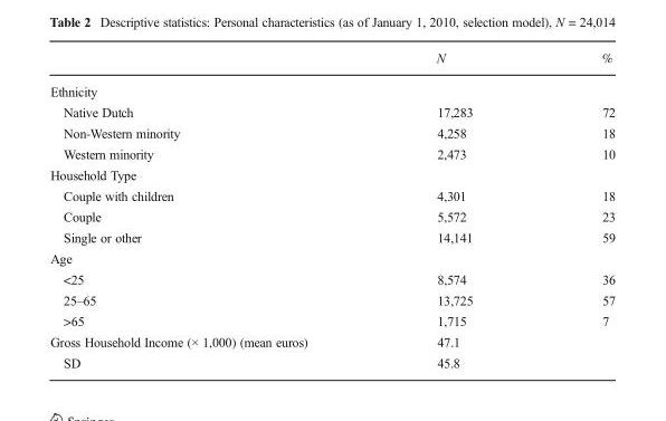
<table><thead><tr><td></td><td>N</td><td>%</td></tr></thead><tbody><tr><td colspan="3">Ethnicity</td></tr><tr><td>Native Dutch</td><td>17,283</td><td>72</td></tr><tr><td>Non-Western minority</td><td>4,258</td><td>18</td></tr><tr><td>Western minority</td><td>2,473</td><td>10</td></tr><tr><td colspan="3">Household Type</td></tr><tr><td>Couple with children</td><td>4,301</td><td>18</td></tr><tr><td>Couple</td><td>5,572</td><td>23</td></tr><tr><td>Single or other</td><td>14,141</td><td>59</td></tr><tr><td colspan="3">Age</td></tr><tr><td>&lt;25</td><td>8,574</td><td>36</td></tr><tr><td>25–65</td><td>13,725</td><td>57</td></tr><tr><td>&gt;65</td><td>1,715</td><td>7</td></tr><tr><td>Gross Household Income (× 1,000) (mean euros)</td><td>47.1</td><td></td></tr><tr><td>SD</td><td>45.8</td><td></td></tr></tbody></table>